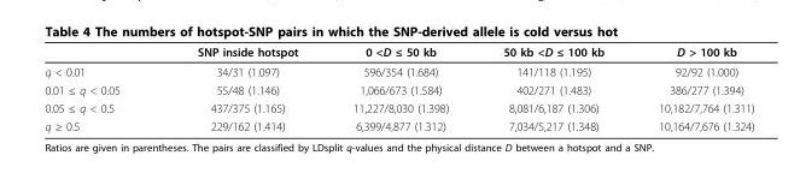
<table><thead><tr><td></td><td>SNP inside hotspot</td><td>0 &lt;D ≤ 50 kb</td><td>50 kb &lt;D ≤ 100 kb</td><td>D &gt; 100 kb</td></tr></thead><tbody><tr><td>q &lt; 0.01</td><td>34/31 (1.097)</td><td>596/354 (1.684)</td><td>141/118 (1.195)</td><td>92/92 (1.000)</td></tr><tr><td>0.01 ≤ q &lt; 0.05</td><td>55/48 (1.146)</td><td>1,066/673 (1.584)</td><td>402/271 (1.483)</td><td>386/277 (1.394)</td></tr><tr><td>0.05 ≤ q &lt; 0.5</td><td>437/375 (1.165)</td><td>11,227/8,030 (1.398)</td><td>8,081/6,187 (1.306)</td><td>10,182/7,764 (1.311)</td></tr><tr><td>q ≥ 0.5</td><td>229/162 (1.414)</td><td>6,399/4,877 (1.312)</td><td>7,034/5,217 (1.348)</td><td>10,164/7,676 (1.324)</td></tr></tbody></table>